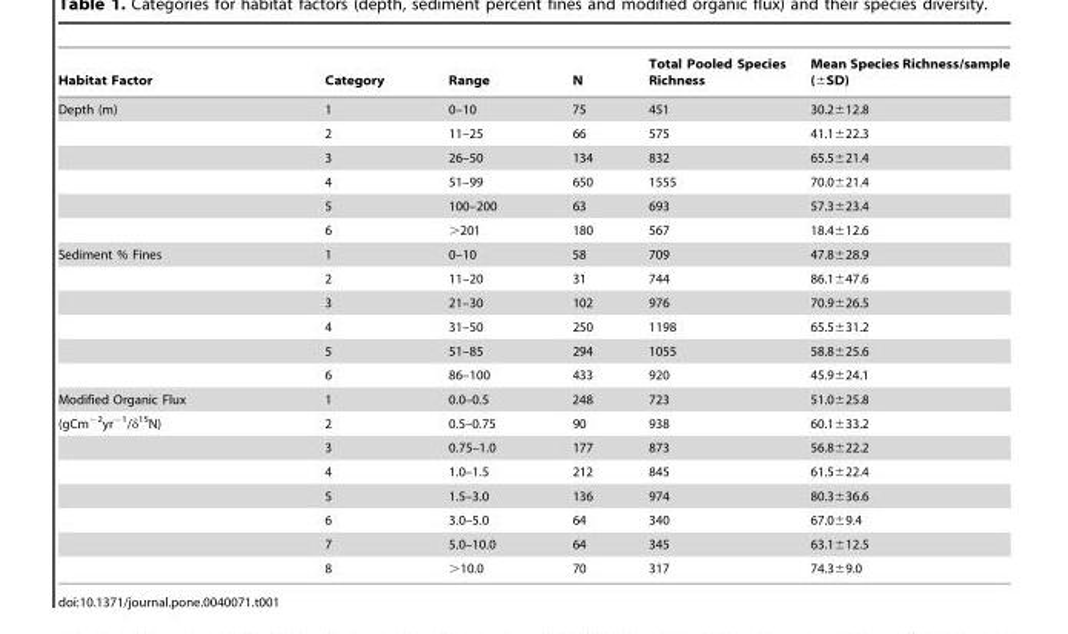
<table><thead><tr><td>Habitat Factor</td><td>Category</td><td>Range</td><td>N</td><td>Total Pooled Species Richness</td><td>Mean Species Richness/sample (±SD)</td></tr></thead><tbody><tr><td rowspan="6">Depth (m)</td><td>1</td><td>0–10</td><td>75</td><td>451</td><td>30.2±12.8</td></tr><tr><td>2</td><td>11–25</td><td>66</td><td>575</td><td>41.1±22.3</td></tr><tr><td>3</td><td>26–50</td><td>134</td><td>832</td><td>65.5±21.4</td></tr><tr><td>4</td><td>51–99</td><td>650</td><td>1555</td><td>70.0±21.4</td></tr><tr><td>5</td><td>100–200</td><td>63</td><td>693</td><td>57.3±23.4</td></tr><tr><td>6</td><td>&gt;201</td><td>180</td><td>567</td><td>18.4±12.6</td></tr><tr><td rowspan="6">Sediment % Fines</td><td>1</td><td>0–10</td><td>58</td><td>709</td><td>47.8±28.9</td></tr><tr><td>2</td><td>11–20</td><td>31</td><td>744</td><td>86.1±47.6</td></tr><tr><td>3</td><td>21–30</td><td>102</td><td>976</td><td>70.9±26.5</td></tr><tr><td>4</td><td>31–50</td><td>250</td><td>1198</td><td>65.5±31.2</td></tr><tr><td>5</td><td>51–85</td><td>294</td><td>1055</td><td>58.8±25.6</td></tr><tr><td>6</td><td>86–100</td><td>433</td><td>920</td><td>45.9±24.1</td></tr><tr><td>Modified Organic Flux</td><td>1</td><td>0.0–0.5</td><td>248</td><td>723</td><td>51.0±25.8</td></tr><tr><td rowspan="7">(gCm<sup>−2</sup>yr<sup>−1</sup>/δ<sup>15</sup>N)</td><td>2</td><td>0.5–0.75</td><td>90</td><td>938</td><td>60.1±33.2</td></tr><tr><td>3</td><td>0.75–1.0</td><td>177</td><td>873</td><td>56.8±22.2</td></tr><tr><td>4</td><td>1.0–1.5</td><td>212</td><td>845</td><td>61.5±22.4</td></tr><tr><td>5</td><td>1.5–3.0</td><td>136</td><td>974</td><td>80.3±36.6</td></tr><tr><td>6</td><td>3.0–5.0</td><td>64</td><td>340</td><td>67.0±9.4</td></tr><tr><td>7</td><td>5.0–10.0</td><td>64</td><td>345</td><td>63.1±12.5</td></tr><tr><td>8</td><td>&gt;10.0</td><td>70</td><td>317</td><td>74.3±9.0</td></tr></tbody></table>